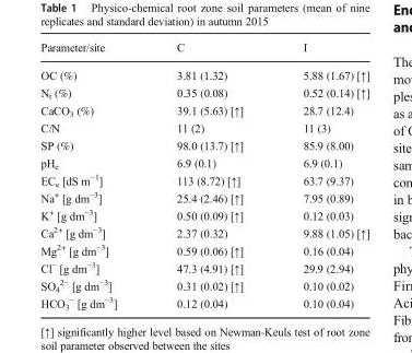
<table><thead><tr><td>Parameter/site</td><td>C</td><td>I</td></tr></thead><tbody><tr><td>OC (%)</td><td>3.81 (1.32)</td><td>5.88 (1.67) [↑]</td></tr><tr><td>N<sub>t</sub> (%)</td><td>0.35 (0.08)</td><td>0.52 (0.14) [↑]</td></tr><tr><td>CaCO<sub>3</sub> (%)</td><td>39.1 (5.63) [↑]</td><td>28.7 (12.4)</td></tr><tr><td>C/N</td><td>11 (2)</td><td>11 (3)</td></tr><tr><td>SP (%)</td><td>98.0 (13.7) [↑]</td><td>85.9 (8.00)</td></tr><tr><td>pH<sub>e</sub></td><td>6.9 (0.1)</td><td>6.9 (0.1)</td></tr><tr><td>EC<sub>e</sub> [dS m<sup>−1</sup>]</td><td>113 (8.72) [↑]</td><td>63.7 (9.37)</td></tr><tr><td>Na<sup>+</sup> [g dm<sup>−3</sup>]</td><td>25.4 (2.46) [↑]</td><td>7.95 (0.89)</td></tr><tr><td>K<sup>+</sup> [g dm<sup>−3</sup>]</td><td>0.50 (0.09) [↑]</td><td>0.12 (0.03)</td></tr><tr><td>Ca<sup>2+</sup> [g dm<sup>−3</sup>]</td><td>2.37 (0.32)</td><td>9.88 (1.05) [↑]</td></tr><tr><td>Mg<sup>2+</sup> [g dm<sup>−3</sup>]</td><td>0.59 (0.06) [↑]</td><td>0.16 (0.04)</td></tr><tr><td>Cl<sup>−</sup> [g dm<sup>−3</sup>]</td><td>47.3 (4.91) [↑]</td><td>29.9 (2.94)</td></tr><tr><td>SO<sub>4</sub> <sup>2−</sup> [g dm<sup>−3</sup>]</td><td>0.31 (0.02) [↑]</td><td>0.10 (0.02)</td></tr><tr><td>HCO<sub>3</sub> <sup>−</sup> [g dm<sup>−3</sup>]</td><td>0.12 (0.04)</td><td>0.10 (0.04)</td></tr></tbody></table>